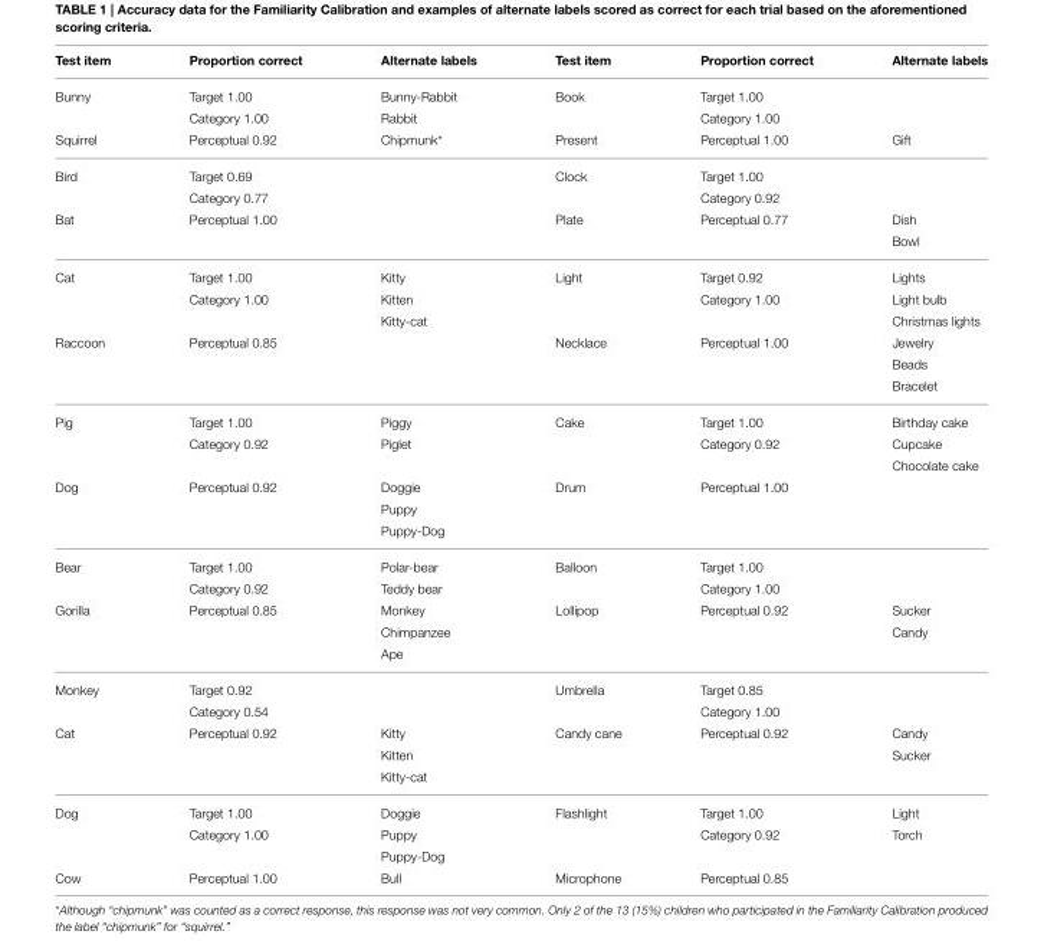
<table><thead><tr><td>Test item</td><td>Proportion correct</td><td>Alternate labels</td><td>Test item</td><td>Proportion correct</td><td>Alternate labels</td></tr></thead><tbody><tr><td rowspan="2">Bunny</td><td>Target 1.00</td><td>Bunny-Rabbit</td><td>Book</td><td>Target 1.00</td><td></td></tr><tr><td>Category 1.00</td><td>Rabbit</td><td></td><td>Category 1.00</td><td></td></tr><tr><td>Squirrel</td><td>Perceptual 0.92</td><td>Chipmunk*</td><td>Present</td><td>Perceptual 1.00</td><td>Gift</td></tr><tr><td rowspan="2">Bird</td><td>Target 0.69</td><td></td><td>Clock</td><td>Target 1.00</td><td></td></tr><tr><td>Category 0.77</td><td></td><td></td><td>Category 0.92</td><td></td></tr><tr><td rowspan="2">Bat</td><td>Perceptual 1.00</td><td></td><td>Plate</td><td>Perceptual 0.77</td><td>Dish</td></tr><tr><td></td><td></td><td></td><td></td><td>Bowl</td></tr><tr><td rowspan="3">Cat</td><td>Target 1.00</td><td>Kitty</td><td>Light</td><td>Target 0.92</td><td>Lights</td></tr><tr><td>Category 1.00</td><td>Kitten</td><td></td><td>Category 1.00</td><td>Light bulb</td></tr><tr><td></td><td>Kitty-cat</td><td></td><td></td><td>Christmas lights</td></tr><tr><td rowspan="3">Raccoon</td><td>Perceptual 0.85</td><td></td><td>Necklace</td><td>Perceptual 1.00</td><td>Jewelry</td></tr><tr><td></td><td></td><td></td><td></td><td>Beads</td></tr><tr><td></td><td></td><td></td><td></td><td>Bracelet</td></tr><tr><td rowspan="3">Pig</td><td>Target 1.00</td><td>Piggy</td><td>Cake</td><td>Target 1.00</td><td>Birthday cake</td></tr><tr><td>Category 0.92</td><td>Piglet</td><td></td><td>Category 0.92</td><td>Cupcake</td></tr><tr><td></td><td></td><td></td><td></td><td>Chocolate cake</td></tr><tr><td rowspan="3">Dog</td><td>Perceptual 0.92</td><td>Doggie</td><td>Drum</td><td>Perceptual 1.00</td><td></td></tr><tr><td></td><td>Puppy</td><td></td><td></td><td></td></tr><tr><td></td><td>Puppy-Dog</td><td></td><td></td><td></td></tr><tr><td rowspan="2">Bear</td><td>Target 1.00</td><td>Polar-bear</td><td>Balloon</td><td>Target 1.00</td><td></td></tr><tr><td>Category 0.92</td><td>Teddy bear</td><td></td><td>Category 1.00</td><td></td></tr><tr><td rowspan="3">Gorilla</td><td>Perceptual 0.85</td><td>Monkey</td><td>Lollipop</td><td>Perceptual 0.92</td><td>Sucker</td></tr><tr><td></td><td>Chimpanzee</td><td></td><td></td><td>Candy</td></tr><tr><td></td><td>Ape</td><td></td><td></td><td></td></tr><tr><td rowspan="2">Monkey</td><td>Target 0.92</td><td></td><td>Umbrella</td><td>Target 0.85</td><td></td></tr><tr><td>Category 0.54</td><td></td><td></td><td>Category 1.00</td><td></td></tr><tr><td rowspan="3">Cat</td><td>Perceptual 0.92</td><td>Kitty</td><td>Candy cane</td><td>Perceptual 0.92</td><td>Candy</td></tr><tr><td></td><td>Kitten</td><td></td><td></td><td>Sucker</td></tr><tr><td></td><td>Kitty-cat</td><td></td><td></td><td></td></tr><tr><td rowspan="3">Dog</td><td>Target 1.00</td><td>Doggie</td><td>Flashlight</td><td>Target 1.00</td><td>Light</td></tr><tr><td>Category 1.00</td><td>Puppy</td><td></td><td>Category 0.92</td><td>Torch</td></tr><tr><td></td><td>Puppy-Dog</td><td></td><td></td><td></td></tr><tr><td>Cow</td><td>Perceptual 1.00</td><td>Bull</td><td>Microphone</td><td>Perceptual 0.85</td><td></td></tr></tbody></table>